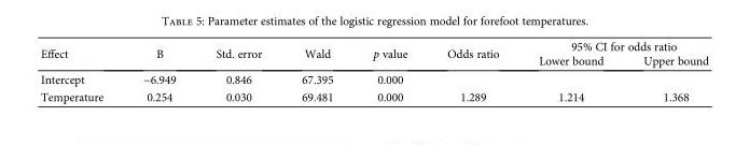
<table><thead><tr><td rowspan="2">Effect</td><td rowspan="2">B</td><td rowspan="2">Std. error</td><td rowspan="2">Wald</td><td rowspan="2">p value</td><td rowspan="2">Odds ratio</td><td colspan="2">95% CI for odds ratio</td></tr><tr><td>Lower bound</td><td>Upper bound</td></tr></thead><tbody><tr><td>Intercept</td><td>−6.949</td><td>0.846</td><td>67.395</td><td>0.000</td><td></td><td></td><td></td></tr><tr><td>Temperature</td><td>0.254</td><td>0.030</td><td>69.481</td><td>0.000</td><td>1.289</td><td>1.214</td><td>1.368</td></tr></tbody></table>